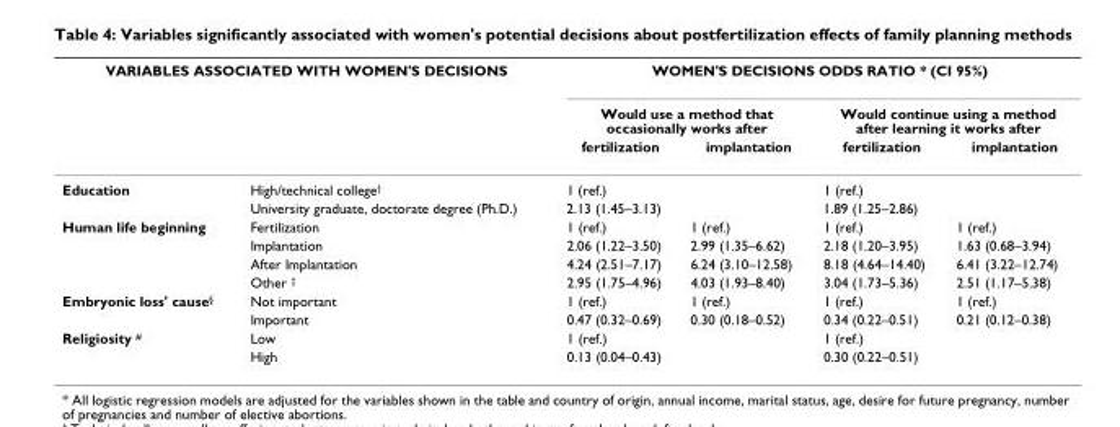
<table><thead><tr><td colspan="2">VARIABLES ASSOCIATED WITH WOMEN&#x27;S DECISIONS</td><td colspan="4">WOMEN&#x27;S DECISIONS ODDS RATIO * (CI 95%)</td></tr><tr><td rowspan="2"></td><td rowspan="2"></td><td colspan="2">Would use a method that occasionally works after</td><td colspan="2">Would continue using a method after learning it works after</td></tr><tr><td>fertilization</td><td>implantation</td><td>fertilization</td><td>implantation</td></tr></thead><tbody><tr><td rowspan="2">Education</td><td>High/technical college<sup>†</sup></td><td>1 (ref.)</td><td></td><td>1 (ref.)</td><td></td></tr><tr><td>University graduate, doctorate degree (Ph.D.)</td><td>2.13 (1.45–3.13)</td><td></td><td>1.89 (1.25–2.86)</td><td></td></tr><tr><td rowspan="4">Human life beginning</td><td>Fertilization</td><td>1 (ref.)</td><td>1 (ref.)</td><td>1 (ref.)</td><td>1 (ref.)</td></tr><tr><td>Implantation</td><td>2.06 (1.22–3.50)</td><td>2.99 (1.35–6.62)</td><td>2.18 (1.20–3.95)</td><td>1.63 (0.68–3.94)</td></tr><tr><td>After Implantation</td><td>4.24 (2.51–7.17)</td><td>6.24 (3.10–12.58)</td><td>8.18 (4.64–14.40)</td><td>6.41 (3.22–12.74)</td></tr><tr><td>Other <sup>‡</sup></td><td>2.95 (1.75–4.96)</td><td>4.03 (1.93–8.40)</td><td>3.04 (1.73–5.36)</td><td>2.51 (1.17–5.38)</td></tr><tr><td rowspan="2">Embryonic loss&#x27; cause<sup>§</sup></td><td>Not important</td><td>1 (ref.)</td><td>1 (ref.)</td><td>1 (ref.)</td><td>1 (ref.)</td></tr><tr><td>Important</td><td>0.47 (0.32–0.69)</td><td>0.30 (0.18–0.52)</td><td>0.34 (0.22–0.51)</td><td>0.21 (0.12–0.38)</td></tr><tr><td rowspan="2">Religiosity <sup>#</sup></td><td>Low</td><td>1 (ref.)</td><td></td><td>1 (ref.)</td><td></td></tr><tr><td>High</td><td>0.13 (0.04–0.43)</td><td></td><td>0.30 (0.22–0.51)</td><td></td></tr></tbody></table>